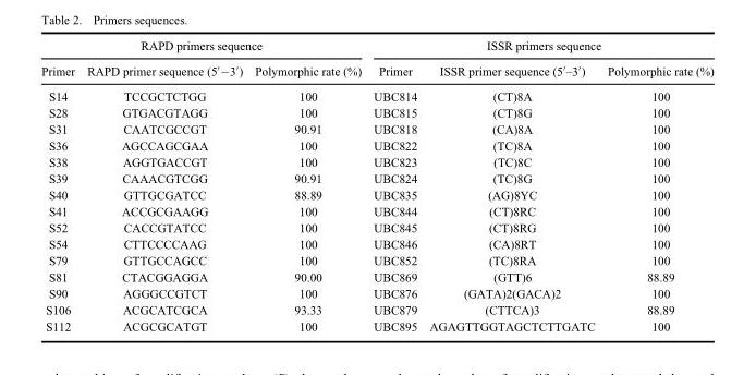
<table><thead><tr><td colspan="3">RAPD primers sequence</td><td colspan="3">ISSR primers sequence</td></tr><tr><td>Primer</td><td>RAPD primer sequence (5′–3′)</td><td>Polymorphic rate (%)</td><td>Primer</td><td>ISSR primer sequence (50–30)</td><td>Polymorphic rate (%)</td></tr></thead><tbody><tr><td>S14</td><td>TCCGCTCTGG</td><td>100</td><td>UBC814</td><td>(CT)8A</td><td>100</td></tr><tr><td>S28</td><td>GTGACGTAGG</td><td>100</td><td>UBC815</td><td>(CT)8G</td><td>100</td></tr><tr><td>S31</td><td>CAATCGCCGT</td><td>90.91</td><td>UBC818</td><td>(CA)8A</td><td>100</td></tr><tr><td>S36</td><td>AGCCAGCGAA</td><td>100</td><td>UBC822</td><td>(TC)8A</td><td>100</td></tr><tr><td>S38</td><td>AGGTGACCGT</td><td>100</td><td>UBC823</td><td>(TC)8C</td><td>100</td></tr><tr><td>S39</td><td>CAAACGTCGG</td><td>90.91</td><td>UBC824</td><td>(TC)8G</td><td>100</td></tr><tr><td>S40</td><td>GTTGCGATCC</td><td>88.89</td><td>UBC835</td><td>(AG)8YC</td><td>100</td></tr><tr><td>S41</td><td>ACCGCGAAGG</td><td>100</td><td>UBC844</td><td>(CT)8RC</td><td>100</td></tr><tr><td>S52</td><td>CACCGTATCC</td><td>100</td><td>UBC845</td><td>(CT)8RG</td><td>100</td></tr><tr><td>S54</td><td>CTTCCCCAAG</td><td>100</td><td>UBC846</td><td>(CA)8RT</td><td>100</td></tr><tr><td>S79</td><td>GTTGCCAGCC</td><td>100</td><td>UBC852</td><td>(TC)8RA</td><td>100</td></tr><tr><td>S81</td><td>CTACGGAGGA</td><td>90.00</td><td>UBC869</td><td>(GTT)6</td><td>88.89</td></tr><tr><td>S90</td><td>AGGGCCGTCT</td><td>100</td><td>UBC876</td><td>(GATA)2(GACA)2</td><td>100</td></tr><tr><td>S106</td><td>ACGCATCGCA</td><td>93.33</td><td>UBC879</td><td>(CTTCA)3</td><td>88.89</td></tr><tr><td>S112</td><td>ACGCGCATGT</td><td>100</td><td>UBC895</td><td>AGAGTTGGTAGCTCTTGATC</td><td>100</td></tr></tbody></table>